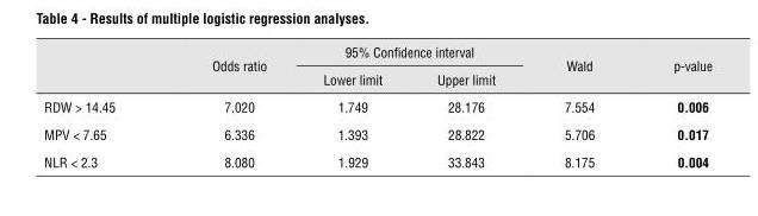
<table><thead><tr><td rowspan="2"></td><td rowspan="2">Odds ratio</td><td colspan="2">95% Confidence interval</td><td rowspan="2">Wald</td><td rowspan="2">p-value</td></tr><tr><td>Lower limit</td><td>Upper limit</td></tr></thead><tbody><tr><td>RDW &gt; 14.45</td><td>7.020</td><td>1.749</td><td>28.176</td><td>7.554</td><td>0.006</td></tr><tr><td>MPV &lt; 7.65</td><td>6.336</td><td>1.393</td><td>28.822</td><td>5.706</td><td>0.017</td></tr><tr><td>NLR &lt; 2.3</td><td>8.080</td><td>1.929</td><td>33.843</td><td>8.175</td><td>0.004</td></tr></tbody></table>